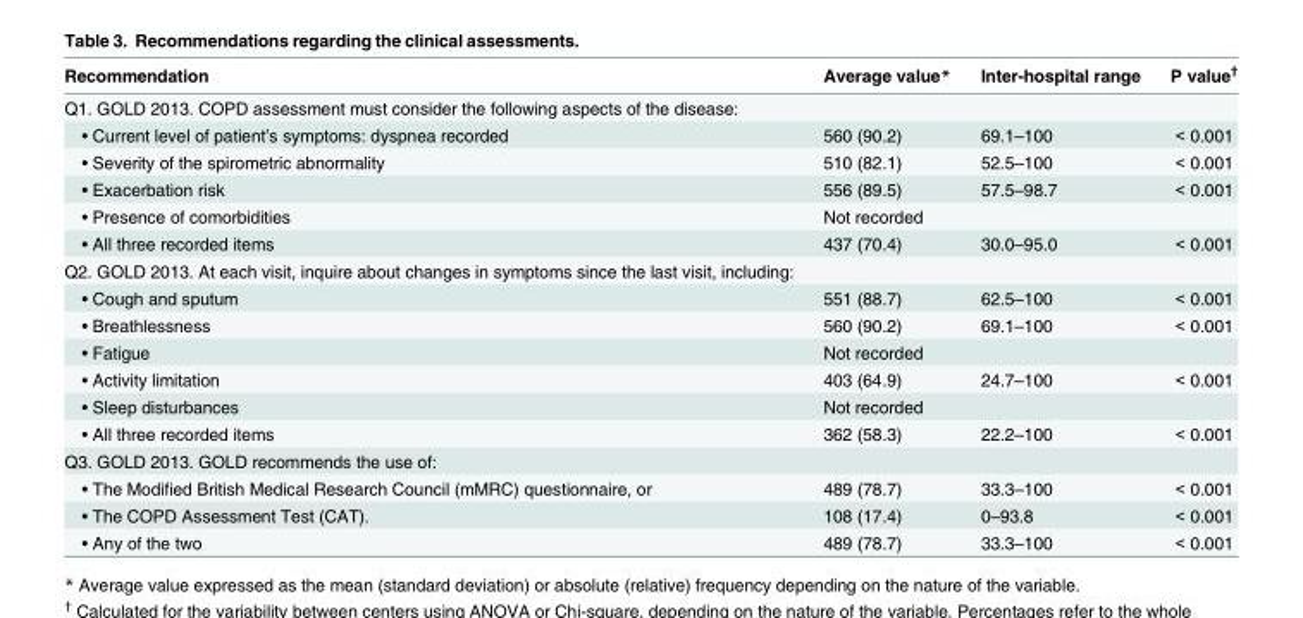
<table><thead><tr><td>Recommendation</td><td>Average value*</td><td>Inter-hospital range</td><td>P value<sup>†</sup></td></tr></thead><tbody><tr><td colspan="4">Q1. GOLD 2013. COPD assessment must consider the following aspects of the disease:</td></tr><tr><td>• Current level of patient’s symptoms: dyspnea recorded</td><td>560 (90.2)</td><td>69.1–100</td><td>&lt; 0.001</td></tr><tr><td>• Severity of the spirometric abnormality</td><td>510 (82.1)</td><td>52.5–100</td><td>&lt; 0.001</td></tr><tr><td>• Exacerbation risk</td><td>556 (89.5)</td><td>57.5–98.7</td><td>&lt; 0.001</td></tr><tr><td>• Presence of comorbidities</td><td>Not recorded</td><td></td><td></td></tr><tr><td>• All three recorded items</td><td>437 (70.4)</td><td>30.0–95.0</td><td>&lt; 0.001</td></tr><tr><td colspan="4">Q2. GOLD 2013. At each visit, inquire about changes in symptoms since the last visit, including:</td></tr><tr><td>• Cough and sputum</td><td>551 (88.7)</td><td>62.5–100</td><td>&lt; 0.001</td></tr><tr><td>• Breathlessness</td><td>560 (90.2)</td><td>69.1–100</td><td>&lt; 0.001</td></tr><tr><td>• Fatigue</td><td>Not recorded</td><td></td><td></td></tr><tr><td>• Activity limitation</td><td>403 (64.9)</td><td>24.7–100</td><td>&lt; 0.001</td></tr><tr><td>• Sleep disturbances</td><td>Not recorded</td><td></td><td></td></tr><tr><td>• All three recorded items</td><td>362 (58.3)</td><td>22.2–100</td><td>&lt; 0.001</td></tr><tr><td colspan="4">Q3. GOLD 2013. GOLD recommends the use of:</td></tr><tr><td>• The Modified British Medical Research Council (mMRC) questionnaire, or</td><td>489 (78.7)</td><td>33.3–100</td><td>&lt; 0.001</td></tr><tr><td>• The COPD Assessment Test (CAT).</td><td>108 (17.4)</td><td>0–93.8</td><td>&lt; 0.001</td></tr><tr><td>• Any of the two</td><td>489 (78.7)</td><td>33.3–100</td><td>&lt; 0.001</td></tr></tbody></table>